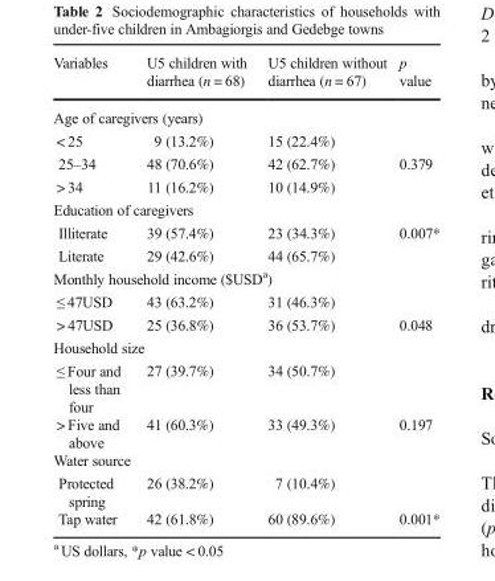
<table><thead><tr><td>Variables</td><td>U5 children with diarrhea (n = 68)</td><td>U5 children without diarrhea (n = 67)</td><td>p value</td></tr></thead><tbody><tr><td colspan="4">Age of caregivers (years)</td></tr><tr><td>&lt; 25</td><td>9 (13.2%)</td><td>15 (22.4%)</td><td></td></tr><tr><td>25–34</td><td>48 (70.6%)</td><td>42 (62.7%)</td><td>0.379</td></tr><tr><td>&gt; 34</td><td>11 (16.2%)</td><td>10 (14.9%)</td><td></td></tr><tr><td colspan="4">Education of caregivers</td></tr><tr><td>Illiterate</td><td>39 (57.4%)</td><td>23 (34.3%)</td><td>0.007*</td></tr><tr><td>Literate</td><td>29 (42.6%)</td><td>44 (65.7%)</td><td></td></tr><tr><td colspan="4">Monthly household income ($USD<sup>a</sup>)</td></tr><tr><td>≤ 47USD</td><td>43 (63.2%)</td><td>31 (46.3%)</td><td></td></tr><tr><td>&gt; 47USD</td><td>25 (36.8%)</td><td>36 (53.7%)</td><td>0.048</td></tr><tr><td colspan="4">Household size</td></tr><tr><td>≤ Four and less than four</td><td>27 (39.7%)</td><td>34 (50.7%)</td><td></td></tr><tr><td>&gt; Five and above</td><td>41 (60.3%)</td><td>33 (49.3%)</td><td>0.197</td></tr><tr><td colspan="4">Water source</td></tr><tr><td>Protected spring</td><td>26 (38.2%)</td><td>7 (10.4%)</td><td></td></tr><tr><td>Tap water</td><td>42 (61.8%)</td><td>60 (89.6%)</td><td>0.001*</td></tr></tbody></table>